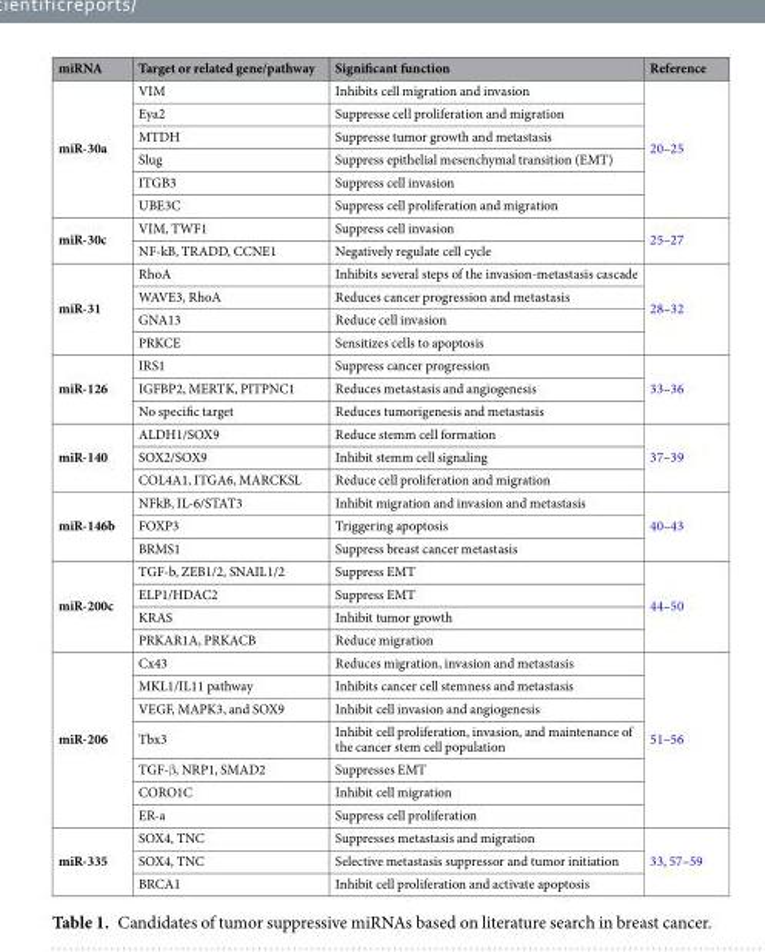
<table><thead><tr><td>miRNA</td><td>Target or related gene/pathway</td><td>Significant function</td><td>Reference</td></tr></thead><tbody><tr><td rowspan="6">miR-30a</td><td>VIM</td><td>Inhibits cell migration and invasion</td><td rowspan="6">20–25</td></tr><tr><td>Eya2</td><td>Suppresse cell proliferation and migration</td></tr><tr><td>MTDH</td><td>Suppresse tumor growth and metastasis</td></tr><tr><td>Slug</td><td>Suppress epithelial mesenchymal transition (EMT)</td></tr><tr><td>ITGB3</td><td>Suppress cell invasion</td></tr><tr><td>UBE3C</td><td>Suppress cell proliferation and migration</td></tr><tr><td rowspan="2">miR-30c</td><td>VIM, TWF1</td><td>Suppress cell invasion</td><td rowspan="2">25–27</td></tr><tr><td>NF-kB, TRADD, CCNE1</td><td>Negatively regulate cell cycle</td></tr><tr><td rowspan="4">miR-31</td><td>RhoA</td><td>Inhibits several steps of the invasion-metastasis cascade</td><td rowspan="4">28–32</td></tr><tr><td>WAVE3, RhoA</td><td>Reduces cancer progression and metastasis</td></tr><tr><td>GNA13</td><td>Reduce cell invasion</td></tr><tr><td>PRKCE</td><td>Sensitizes cells to apoptosis</td></tr><tr><td rowspan="3">miR-126</td><td>IRS1</td><td>Suppress cancer progression</td><td rowspan="3">33–36</td></tr><tr><td>IGFBP2, MERTK, PITPNC1</td><td>Reduces metastasis and angiogenesis</td></tr><tr><td>No specific target</td><td>Reduces tumorigenesis and metastasis</td></tr><tr><td rowspan="3">miR-140</td><td>ALDH1/SOX9</td><td>Reduce stemm cell formation</td><td rowspan="3">37–39</td></tr><tr><td>SOX2/SOX9</td><td>Inhibit stemm cell signaling</td></tr><tr><td>COL4A1, ITGA6, MARCKSL</td><td>Reduce cell proliferation and migration</td></tr><tr><td rowspan="3">miR-146b</td><td>NFkB, IL-6/STAT3</td><td>Inhibit migration and invasion and metastasis</td><td rowspan="3">40–43</td></tr><tr><td>FOXP3</td><td>Triggering apoptosis</td></tr><tr><td>BRMS1</td><td>Suppress breast cancer metastasis</td></tr><tr><td rowspan="4">miR-200c</td><td>TGF-b, ZEB1/2, SNAIL1/2</td><td>Suppress EMT</td><td rowspan="4">44–50</td></tr><tr><td>ELP1/HDAC2</td><td>Suppress EMT</td></tr><tr><td>KRAS</td><td>Inhibit tumor growth</td></tr><tr><td>PRKAR1A, PRKACB</td><td>Reduce migration</td></tr><tr><td rowspan="7">miR-206</td><td>Cx43</td><td>Reduces migration, invasion and metastasis</td><td rowspan="7">51–56</td></tr><tr><td>MKL1/IL11 pathway</td><td>Inhibits cancer cell stemness and metastasis</td></tr><tr><td>VEGF, MAPK3, and SOX9</td><td>Inhibit cell invasion and angiogenesis</td></tr><tr><td>Tbx3</td><td>Inhibit cell proliferation, invasion, and maintenance of the cancer stem cell population</td></tr><tr><td>TGF-β, NRP1, SMAD2</td><td>Suppresses EMT</td></tr><tr><td>CORO1C</td><td>Inhibit cell migration</td></tr><tr><td>ER-a</td><td>Suppress cell proliferation</td></tr><tr><td rowspan="3">miR-335</td><td>SOX4, TNC</td><td>Suppresses metastasis and migration</td><td rowspan="3">33, 57–59</td></tr><tr><td>SOX4, TNC</td><td>Selective metastasis suppressor and tumor initiation</td></tr><tr><td>BRCA1</td><td>Inhibit cell proliferation and activate apoptosis</td></tr></tbody></table>